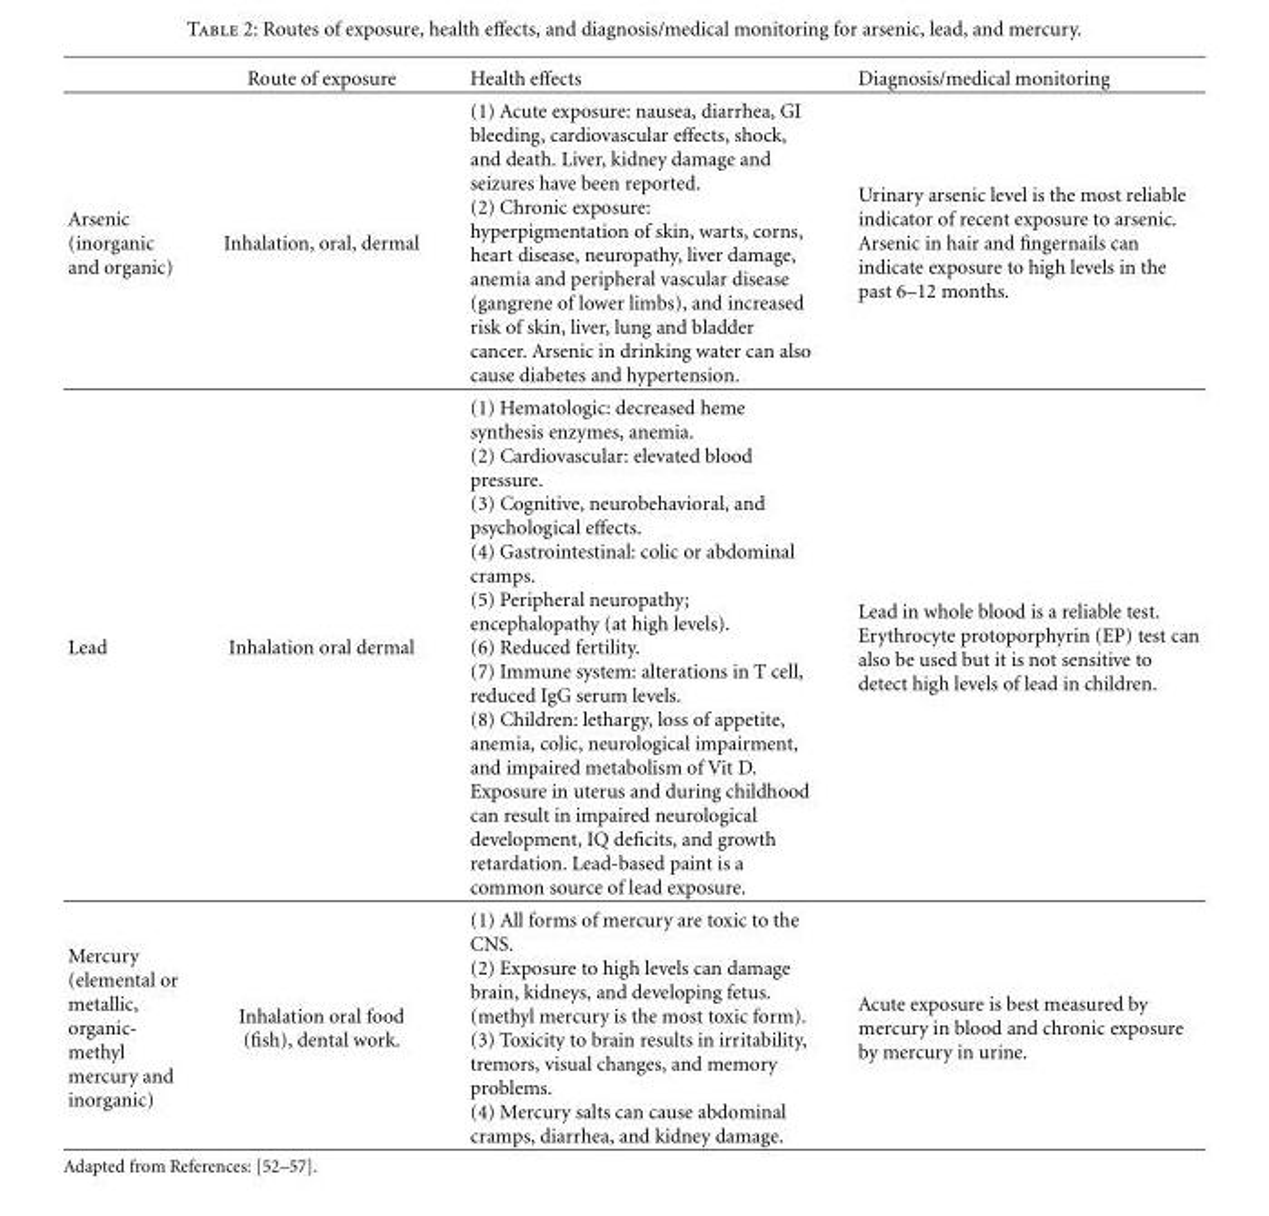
<table><thead><tr><td></td><td>Route of exposure</td><td>Health effects</td><td>Diagnosis/medical monitoring</td></tr></thead><tbody><tr><td>Arsenic (inorganic and organic)</td><td>Inhalation, oral, dermal</td><td>(1) Acute exposure: nausea, diarrhea, GI bleeding, cardiovascular effects, shock, and death. Liver, kidney damage and seizures have been reported. (2) Chronic exposure: hyperpigmentation of skin, warts, corns, heart disease, neuropathy, liver damage, anemia and peripheral vascular disease (gangrene of lower limbs), and increased risk of skin, liver, lung and bladder cancer. Arsenic in drinking water can also cause diabetes and hypertension.</td><td>Urinary arsenic level is the most reliable indicator of recent exposure to arsenic. Arsenic in hair and fingernails can indicate exposure to high levels in the past 6–12 months.</td></tr><tr><td>Lead</td><td>Inhalation oral dermal</td><td>(1) Hematologic: decreased heme synthesis enzymes, anemia. (2) Cardiovascular: elevated blood pressure. (3) Cognitive, neurobehavioral, and psychological effects. (4) Gastrointestinal: colic or abdominal cramps. (5) Peripheral neuropathy; encephalopathy (at high levels). (6) Reduced fertility. (7) Immune system: alterations in T cell, reduced IgG serum levels. (8) Children: lethargy, loss of appetite, anemia, colic, neurological impairment, and impaired metabolism of Vit D. Exposure in uterus and during childhood can result in impaired neurological development, IQ deficits, and growth retardation. Lead-based paint is a common source of lead exposure.</td><td>Lead in whole blood is a reliable test. Erythrocyte protoporphyrin (EP) test can also be used but it is not sensitive to detect high levels of lead in children.</td></tr><tr><td>Mercury (elemental or metallic, organic- methyl mercury and inorganic)</td><td>Inhalation oral food (fish), dental work.</td><td>(1) All forms of mercury are toxic to the CNS. (2) Exposure to high levels can damage brain, kidneys, and developing fetus. (methyl mercury is the most toxic form). (3) Toxicity to brain results in irritability, tremors, visual changes, and memory problems. (4) Mercury salts can cause abdominal cramps, diarrhea, and kidney damage.</td><td>Acute exposure is best measured by mercury in blood and chronic exposure by mercury in urine.</td></tr></tbody></table>